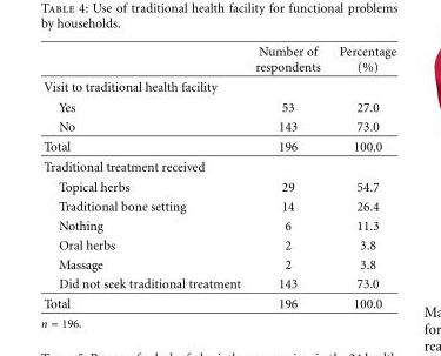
<table><thead><tr><td></td><td>Number of respondents</td><td>Percentage (%)</td></tr></thead><tbody><tr><td colspan="3">Visit to traditional health facility</td></tr><tr><td>Yes</td><td>53</td><td>27.0</td></tr><tr><td>No</td><td>143</td><td>73.0</td></tr><tr><td>Total</td><td>196</td><td>100.0</td></tr><tr><td colspan="3">Traditional treatment received</td></tr><tr><td>Topical herbs</td><td>29</td><td>54.7</td></tr><tr><td>Traditional bone setting</td><td>14</td><td>26.4</td></tr><tr><td>Nothing</td><td>6</td><td>11.3</td></tr><tr><td>Oral herbs</td><td>2</td><td>3.8</td></tr><tr><td>Massage</td><td>2</td><td>3.8</td></tr><tr><td>Did not seek traditional treatment</td><td>143</td><td>73.0</td></tr><tr><td>Total</td><td>196</td><td>100.0</td></tr></tbody></table>